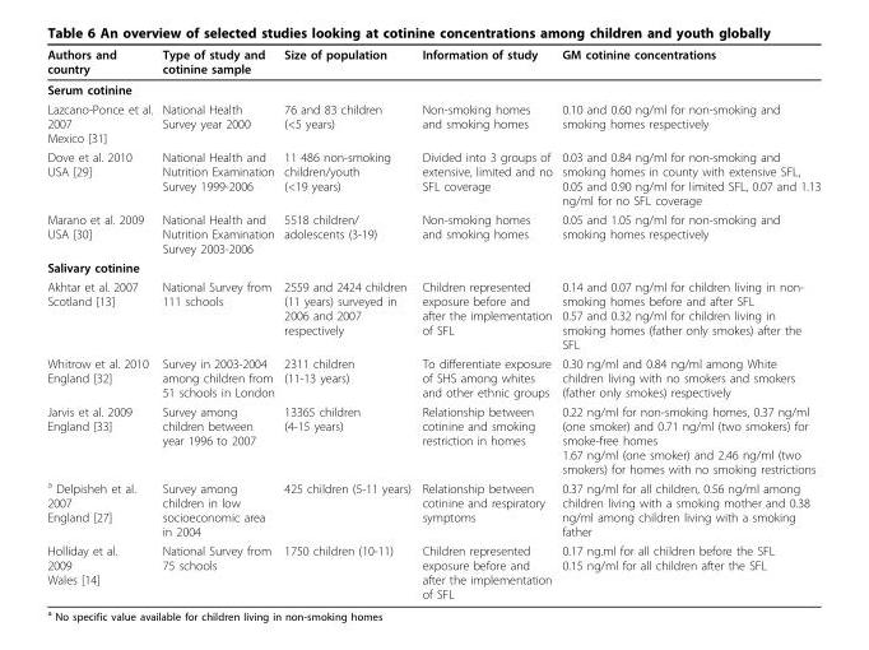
<table><thead><tr><td>Authors and country</td><td>Type of study and cotinine sample</td><td>Size of population</td><td>Information of study</td><td>GM cotinine concentrations</td></tr></thead><tbody><tr><td colspan="5">Serum cotinine</td></tr><tr><td>Lazcano-Ponce et al. 2007 Mexico [31]</td><td>National Health Survey year 2000</td><td>76 and 83 children (&lt;5 years)</td><td>Non-smoking homes and smoking homes</td><td>0.10 and 0.60 ng/ml for non-smoking and smoking homes respectively</td></tr><tr><td>Dove et al. 2010 USA [29]</td><td>National Health and Nutrition Examination Survey 1999-2006</td><td>11 486 non-smoking children/youth (&lt;19 years)</td><td>Divided into 3 groups of extensive, limited and no SFL coverage</td><td>0.03 and 0.84 ng/ml for non-smoking and smoking homes in county with extensive SFL, 0.05 and 0.90 ng/ml for limited SFL, 0.07 and 1.13 ng/ml for no SFL coverage</td></tr><tr><td>Marano et al. 2009 USA [30]</td><td>National Health and Nutrition Examination Survey 2003-2006</td><td>5518 children/ adolescents (3-19)</td><td>Non-smoking homes and smoking homes</td><td>0.05 and 1.05 ng/ml for non-smoking and smoking homes respectively</td></tr><tr><td colspan="5">Salivary cotinine</td></tr><tr><td>Akhtar et al. 2007 Scotland [13]</td><td>National Survey from 111 schools</td><td>2559 and 2424 children (11 years) surveyed in 2006 and 2007 respectively</td><td>Children represented exposure before and after the implementation of SFL</td><td>0.14 and 0.07 ng/ml for children living in non- smoking homes before and after SFL 0.57 and 0.32 ng/ml for children living in smoking homes (father only smokes) after the SFL</td></tr><tr><td>Whitrow et al. 2010 England [32]</td><td>Survey in 2003-2004 among children from 51 schools in London</td><td>2311 children (11-13 years)</td><td>To differentiate exposure of SHS among whites and other ethnic groups</td><td>0.30 ng/ml and 0.84 ng/ml among White children living with no smokers and smokers (father only smokes) respectively</td></tr><tr><td>Jarvis et al. 2009 England [33]</td><td>Survey among children between year 1996 to 2007</td><td>13365 children (4-15 years)</td><td>Relationship between cotinine and smoking restriction in homes</td><td>0.22 ng/ml for non-smoking homes, 0.37 ng/ml (one smoker) and 0.71 ng/ml (two smokers) for smoke-free homes 1.67 ng/ml (one smoker) and 2.46 ng/ml (two smokers) for homes with no smoking restrictions</td></tr><tr><td><sup>a</sup> Delpisheh et al. 2007 England [27]</td><td>Survey among children in low socioeconomic area in 2004</td><td>425 children (5-11 years)</td><td>Relationship between cotinine and respiratory symptoms</td><td>0.37 ng/ml for all children, 0.56 ng/ml among children living with a smoking mother and 0.38 ng/ml among children living with a smoking father</td></tr><tr><td>Holliday et al. 2009 Wales [14]</td><td>National Survey from 75 schools</td><td>1750 children (10-11)</td><td>Children represented exposure before and after the implementation of SFL</td><td>0.17 ng.ml for all children before the SFL 0.15 ng/ml for all children after the SFL</td></tr></tbody></table>